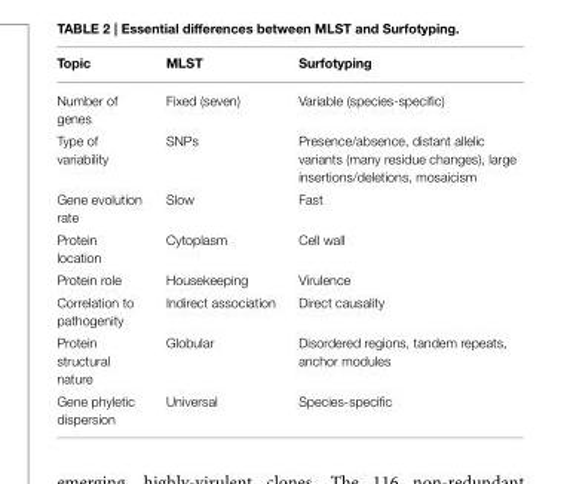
<table><thead><tr><td>Topic</td><td>MLST</td><td>Surfotyping</td></tr></thead><tbody><tr><td>Number of genes</td><td>Fixed (seven)</td><td>Variable (species-specific)</td></tr><tr><td>Type of variability</td><td>SNPs</td><td>Presence/absence, distant allelic variants (many residue changes), large insertions/deletions, mosaicism</td></tr><tr><td>Gene evolution rate</td><td>Slow</td><td>Fast</td></tr><tr><td>Protein location</td><td>Cytoplasm</td><td>Cell wall</td></tr><tr><td>Protein role</td><td>Housekeeping</td><td>Virulence</td></tr><tr><td>Correlation to pathogenity</td><td>Indirect association</td><td>Direct causality</td></tr><tr><td>Protein structural nature</td><td>Globular</td><td>Disordered regions, tandem repeats, anchor modules</td></tr><tr><td>Gene phyletic dispersion</td><td>Universal</td><td>Species-specific</td></tr></tbody></table>